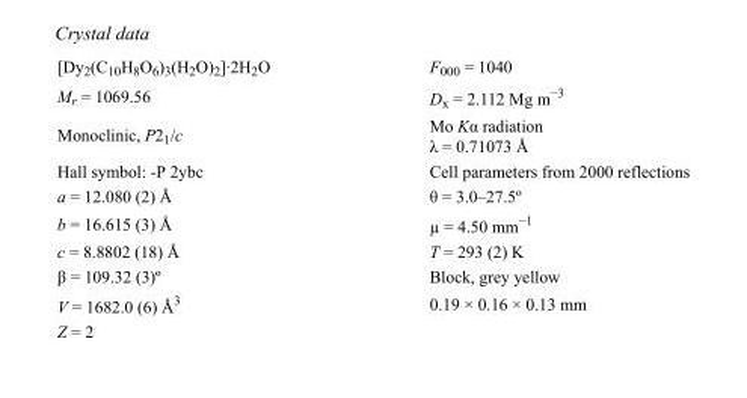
<table><tbody><tr><td>[Dy<sub>2</sub>(C<sub>10</sub>H<sub>8</sub>O<sub>6</sub>)<sub>3</sub>(H<sub>2</sub>O)<sub>2</sub>]·2H<sub>2</sub>O</td><td>F<sub>000</sub> = 1040</td></tr><tr><td>M<sub>r</sub> = 1069.56</td><td>D<sub>x</sub> = 2.112 Mg m<sup>−3</sup></td></tr><tr><td>Monoclinic, P2<sub>1</sub>/c</td><td>Mo Kα radiation λ = 0.71073 Å</td></tr><tr><td>Hall symbol: -P 2ybc</td><td>Cell parameters from 2000 reflections</td></tr><tr><td>a = 12.080 (2) Å</td><td>θ = 3.0–27.5º</td></tr><tr><td>b = 16.615 (3) Å</td><td>µ = 4.50 mm<sup>−1</sup></td></tr><tr><td>c = 8.8802 (18) Å</td><td>T = 293 (2) K</td></tr><tr><td>β = 109.32 (3)º</td><td>Block, grey yellow</td></tr><tr><td>V = 1682.0 (6) Å<sup>3</sup></td><td>0.19 × 0.16 × 0.13 mm</td></tr><tr><td>Z = 2</td><td></td></tr></tbody></table>